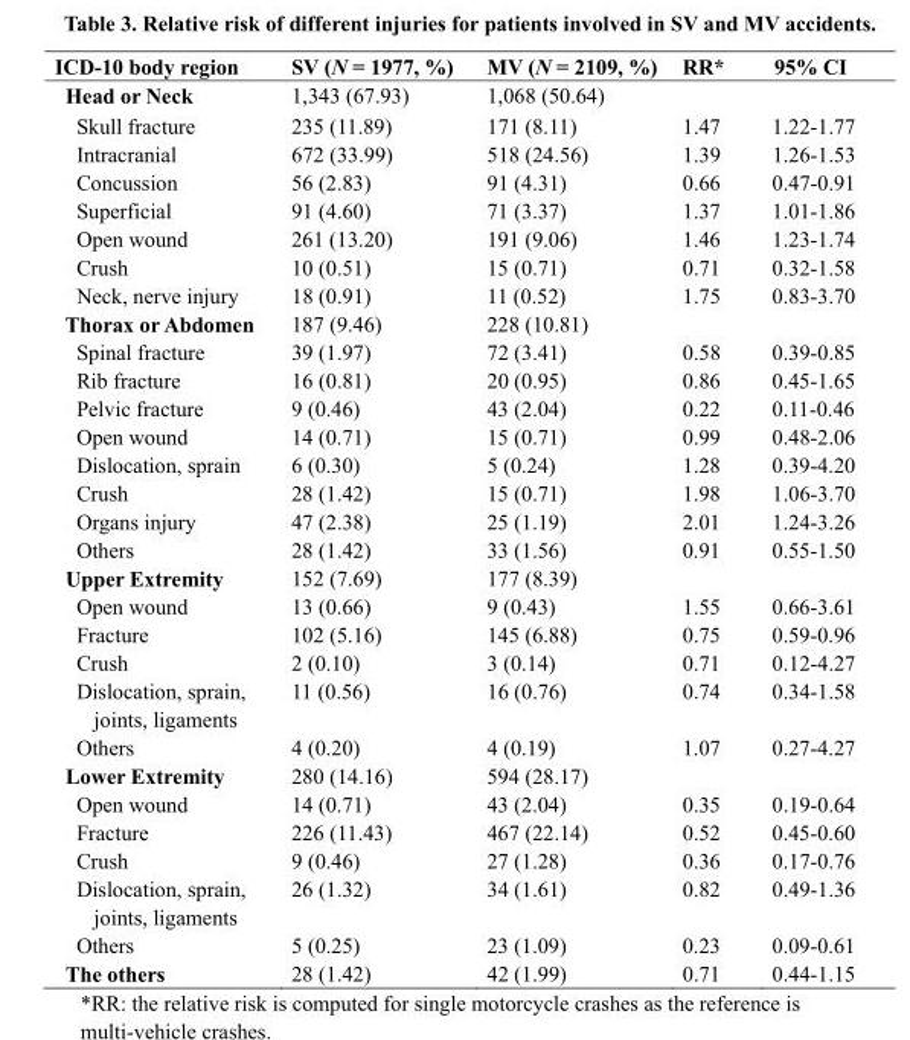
<table><thead><tr><td>ICD-10 body region</td><td>SV (N = 1977, %)</td><td>MV (N = 2109, %)</td><td>RR*</td><td>95% CI</td></tr></thead><tbody><tr><td>Head or Neck</td><td>1,343 (67.93)</td><td>1,068 (50.64)</td><td></td><td></td></tr><tr><td>Skull fracture</td><td>235 (11.89)</td><td>171 (8.11)</td><td>1.47</td><td>1.22-1.77</td></tr><tr><td>Intracranial</td><td>672 (33.99)</td><td>518 (24.56)</td><td>1.39</td><td>1.26-1.53</td></tr><tr><td>Concussion</td><td>56 (2.83)</td><td>91 (4.31)</td><td>0.66</td><td>0.47-0.91</td></tr><tr><td>Superficial</td><td>91 (4.60)</td><td>71 (3.37)</td><td>1.37</td><td>1.01-1.86</td></tr><tr><td>Open wound</td><td>261 (13.20)</td><td>191 (9.06)</td><td>1.46</td><td>1.23-1.74</td></tr><tr><td>Crush</td><td>10 (0.51)</td><td>15 (0.71)</td><td>0.71</td><td>0.32-1.58</td></tr><tr><td>Neck, nerve injury</td><td>18 (0.91)</td><td>11 (0.52)</td><td>1.75</td><td>0.83-3.70</td></tr><tr><td>Thorax or Abdomen</td><td>187 (9.46)</td><td>228 (10.81)</td><td></td><td></td></tr><tr><td>Spinal fracture</td><td>39 (1.97)</td><td>72 (3.41)</td><td>0.58</td><td>0.39-0.85</td></tr><tr><td>Rib fracture</td><td>16 (0.81)</td><td>20 (0.95)</td><td>0.86</td><td>0.45-1.65</td></tr><tr><td>Pelvic fracture</td><td>9 (0.46)</td><td>43 (2.04)</td><td>0.22</td><td>0.11-0.46</td></tr><tr><td>Open wound</td><td>14 (0.71)</td><td>15 (0.71)</td><td>0.99</td><td>0.48-2.06</td></tr><tr><td>Dislocation, sprain</td><td>6 (0.30)</td><td>5 (0.24)</td><td>1.28</td><td>0.39-4.20</td></tr><tr><td>Crush</td><td>28 (1.42)</td><td>15 (0.71)</td><td>1.98</td><td>1.06-3.70</td></tr><tr><td>Organs injury</td><td>47 (2.38)</td><td>25 (1.19)</td><td>2.01</td><td>1.24-3.26</td></tr><tr><td>Others</td><td>28 (1.42)</td><td>33 (1.56)</td><td>0.91</td><td>0.55-1.50</td></tr><tr><td>Upper Extremity</td><td>152 (7.69)</td><td>177 (8.39)</td><td></td><td></td></tr><tr><td>Open wound</td><td>13 (0.66)</td><td>9 (0.43)</td><td>1.55</td><td>0.66-3.61</td></tr><tr><td>Fracture</td><td>102 (5.16)</td><td>145 (6.88)</td><td>0.75</td><td>0.59-0.96</td></tr><tr><td>Crush</td><td>2 (0.10)</td><td>3 (0.14)</td><td>0.71</td><td>0.12-4.27</td></tr><tr><td>Dislocation, sprain, joints, ligaments</td><td>11 (0.56)</td><td>16 (0.76)</td><td>0.74</td><td>0.34-1.58</td></tr><tr><td>Others</td><td>4 (0.20)</td><td>4 (0.19)</td><td>1.07</td><td>0.27-4.27</td></tr><tr><td>Lower Extremity</td><td>280 (14.16)</td><td>594 (28.17)</td><td></td><td></td></tr><tr><td>Open wound</td><td>14 (0.71)</td><td>43 (2.04)</td><td>0.35</td><td>0.19-0.64</td></tr><tr><td>Fracture</td><td>226 (11.43)</td><td>467 (22.14)</td><td>0.52</td><td>0.45-0.60</td></tr><tr><td>Crush</td><td>9 (0.46)</td><td>27 (1.28)</td><td>0.36</td><td>0.17-0.76</td></tr><tr><td>Dislocation, sprain, joints, ligaments</td><td>26 (1.32)</td><td>34 (1.61)</td><td>0.82</td><td>0.49-1.36</td></tr><tr><td>Others</td><td>5 (0.25)</td><td>23 (1.09)</td><td>0.23</td><td>0.09-0.61</td></tr><tr><td>The others</td><td>28 (1.42)</td><td>42 (1.99)</td><td>0.71</td><td>0.44-1.15</td></tr></tbody></table>